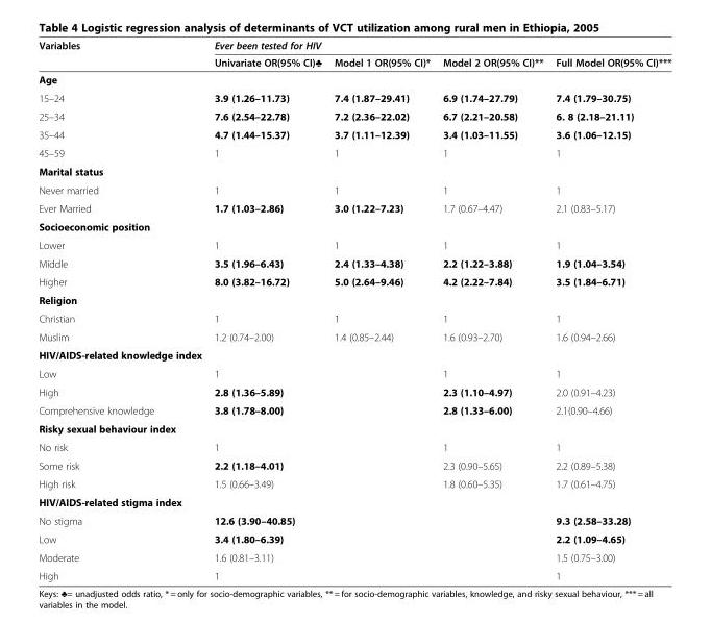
<table><thead><tr><td rowspan="2">Variables</td><td colspan="4">Ever been tested for HIV</td></tr><tr><td>Univariate OR(95% CI)♣</td><td>Model 1 OR(95% CI)*</td><td>Model 2 OR(95% CI)**</td><td>Full Model OR(95% CI)***</td></tr></thead><tbody><tr><td colspan="5">Age</td></tr><tr><td>15–24</td><td>3.9 (1.26–11.73)</td><td>7.4 (1.87–29.41)</td><td>6.9 (1.74–27.79)</td><td>7.4 (1.79–30.75)</td></tr><tr><td>25–34</td><td>7.6 (2.54–22.78)</td><td>7.2 (2.36–22.02)</td><td>6.7 (2.21–20.58)</td><td>6. 8 (2.18–21.11)</td></tr><tr><td>35–44</td><td>4.7 (1.44–15.37)</td><td>3.7 (1.11–12.39)</td><td>3.4 (1.03–11.55)</td><td>3.6 (1.06–12.15)</td></tr><tr><td>45–59</td><td>1</td><td>1</td><td>1</td><td>1</td></tr><tr><td colspan="5">Marital status</td></tr><tr><td>Never married</td><td>1</td><td>1</td><td>1</td><td>1</td></tr><tr><td>Ever Married</td><td>1.7 (1.03–2.86)</td><td>3.0 (1.22–7.23)</td><td>1.7 (0.67–4.47)</td><td>2.1 (0.83–5.17)</td></tr><tr><td colspan="5">Socioeconomic position</td></tr><tr><td>Lower</td><td>1</td><td>1</td><td>1</td><td>1</td></tr><tr><td>Middle</td><td>3.5 (1.96–6.43)</td><td>2.4 (1.33–4.38)</td><td>2.2 (1.22–3.88)</td><td>1.9 (1.04–3.54)</td></tr><tr><td>Higher</td><td>8.0 (3.82–16.72)</td><td>5.0 (2.64–9.46)</td><td>4.2 (2.22–7.84)</td><td>3.5 (1.84–6.71)</td></tr><tr><td colspan="5">Religion</td></tr><tr><td>Christian</td><td>1</td><td>1</td><td>1</td><td>1</td></tr><tr><td>Muslim</td><td>1.2 (0.74–2.00)</td><td>1.4 (0.85–2.44)</td><td>1.6 (0.93–2.70)</td><td>1.6 (0.94–2.66)</td></tr><tr><td colspan="5">HIV/AIDS-related knowledge index</td></tr><tr><td>Low</td><td>1</td><td></td><td>1</td><td>1</td></tr><tr><td>High</td><td>2.8 (1.36–5.89)</td><td></td><td>2.3 (1.10–4.97)</td><td>2.0 (0.91–4.23)</td></tr><tr><td>Comprehensive knowledge</td><td>3.8 (1.78–8.00)</td><td></td><td>2.8 (1.33–6.00)</td><td>2.1(0.90–4.66)</td></tr><tr><td colspan="5">Risky sexual behaviour index</td></tr><tr><td>No risk</td><td>1</td><td></td><td>1</td><td>1</td></tr><tr><td>Some risk</td><td>2.2 (1.18–4.01)</td><td></td><td>2.3 (0.90–5.65)</td><td>2.2 (0.89–5.38)</td></tr><tr><td>High risk</td><td>1.5 (0.66–3.49)</td><td></td><td>1.8 (0.60–5.35)</td><td>1.7 (0.61–4.75)</td></tr><tr><td colspan="5">HIV/AIDS-related stigma index</td></tr><tr><td>No stigma</td><td>12.6 (3.90–40.85)</td><td></td><td></td><td>9.3 (2.58–33.28)</td></tr><tr><td>Low</td><td>3.4 (1.80–6.39)</td><td></td><td></td><td>2.2 (1.09–4.65)</td></tr><tr><td>Moderate</td><td>1.6 (0.81–3.11)</td><td></td><td></td><td>1.5 (0.75–3.00)</td></tr><tr><td>High</td><td>1</td><td></td><td></td><td>1</td></tr></tbody></table>